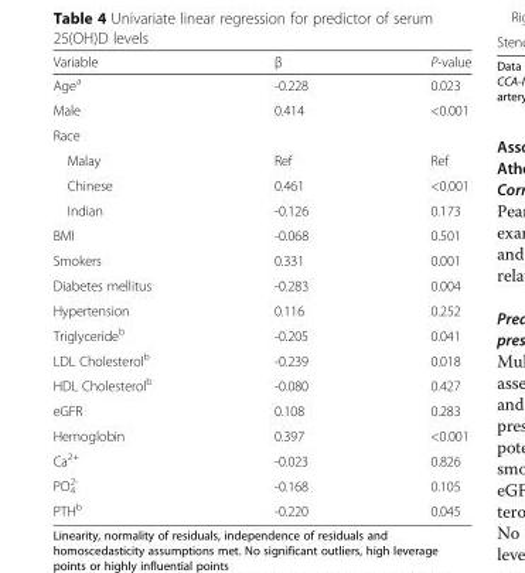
<table><thead><tr><td>Variable</td><td>β</td><td>P-value</td></tr></thead><tbody><tr><td>Age<sup>a</sup></td><td>-0.228</td><td>0.023</td></tr><tr><td>Male</td><td>0.414</td><td>&lt;0.001</td></tr><tr><td colspan="3">Race</td></tr><tr><td>Malay</td><td>Ref</td><td>Ref</td></tr><tr><td>Chinese</td><td>0.461</td><td>&lt;0.001</td></tr><tr><td>Indian</td><td>-0.126</td><td>0.173</td></tr><tr><td>BMI</td><td>-0.068</td><td>0.501</td></tr><tr><td>Smokers</td><td>0.331</td><td>0.001</td></tr><tr><td>Diabetes mellitus</td><td>-0.283</td><td>0.004</td></tr><tr><td>Hypertension</td><td>0.116</td><td>0.252</td></tr><tr><td>Triglyceride<sup>b</sup></td><td>-0.205</td><td>0.041</td></tr><tr><td>LDL Cholesterol<sup>b</sup></td><td>-0.239</td><td>0.018</td></tr><tr><td>HDL Cholesterol<sup>b</sup></td><td>-0.080</td><td>0.427</td></tr><tr><td>eGFR</td><td>0.108</td><td>0.283</td></tr><tr><td>Hemoglobin</td><td>0.397</td><td>&lt;0.001</td></tr><tr><td>Ca<sup>2+</sup></td><td>-0.023</td><td>0.826</td></tr><tr><td>PO<sub>4</sub> <sup>2-</sup></td><td>-0.168</td><td>0.105</td></tr><tr><td>PTH<sup>b</sup></td><td>-0.220</td><td>0.045</td></tr></tbody></table>